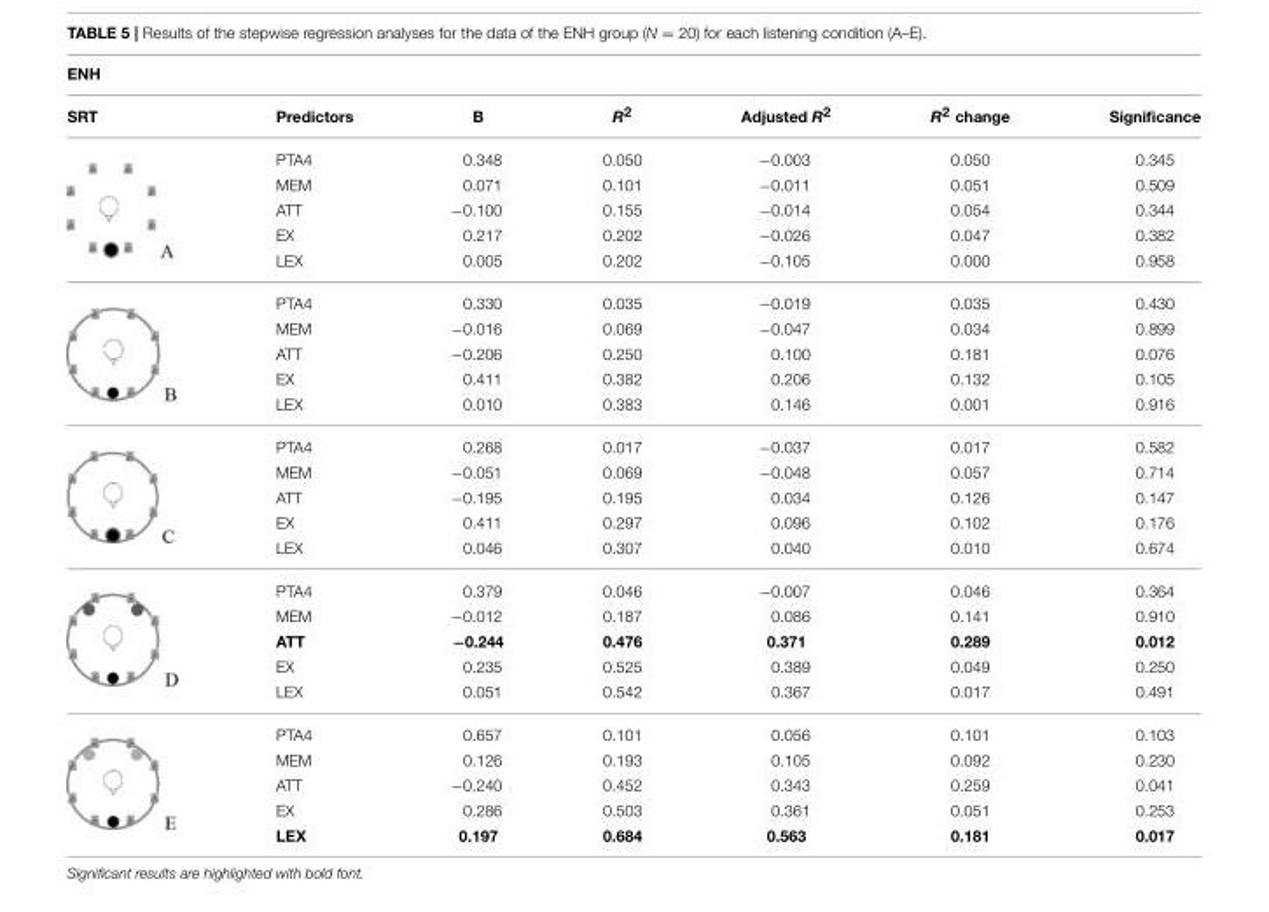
<table><thead><tr><td colspan="7">ENH</td></tr><tr><td>SRT</td><td>Predictors</td><td>B</td><td>R<sup>2</sup></td><td>Adjusted</td><td>R2 R2 change</td><td>Significance</td></tr></thead><tbody><tr><td></td><td>PTA4</td><td>0.348</td><td>0.050</td><td>−0.003</td><td>0.050</td><td>0.345</td></tr><tr><td></td><td>MEM</td><td>0.071</td><td>0.101</td><td>−0.011</td><td>0.051</td><td>0.509</td></tr><tr><td></td><td>ATT</td><td>−0.100</td><td>0.155</td><td>−0.014</td><td>0.054</td><td>0.344</td></tr><tr><td></td><td>EX</td><td>0.217</td><td>0.202</td><td>−0.026</td><td>0.047</td><td>0.382</td></tr><tr><td></td><td>LEX</td><td>0.005</td><td>0.202</td><td>−0.105</td><td>0.000</td><td>0.958</td></tr><tr><td></td><td>PTA4</td><td>0.330</td><td>0.035</td><td>−0.019</td><td>0.035</td><td>0.430</td></tr><tr><td></td><td>MEM</td><td>−0.016</td><td>0.069</td><td>−0.047</td><td>0.034</td><td>0.899</td></tr><tr><td></td><td>ATT</td><td>−0.206</td><td>0.250</td><td>0.100</td><td>0.181</td><td>0.076</td></tr><tr><td></td><td>EX</td><td>0.411</td><td>0.382</td><td>0.206</td><td>0.132</td><td>0.105</td></tr><tr><td></td><td>LEX</td><td>0.010</td><td>0.383</td><td>0.146</td><td>0.001</td><td>0.916</td></tr><tr><td></td><td>PTA4</td><td>0.268</td><td>0.017</td><td>−0.037</td><td>0.017</td><td>0.582</td></tr><tr><td></td><td>MEM</td><td>−0.051</td><td>0.069</td><td>−0.048</td><td>0.057</td><td>0.714</td></tr><tr><td></td><td>ATT</td><td>−0.195</td><td>0.195</td><td>0.034</td><td>0.126</td><td>0.147</td></tr><tr><td></td><td>EX</td><td>0.411</td><td>0.297</td><td>0.096</td><td>0.102</td><td>0.176</td></tr><tr><td></td><td>LEX</td><td>0.046</td><td>0.307</td><td>0.040</td><td>0.010</td><td>0.674</td></tr><tr><td></td><td>PTA4</td><td>0.379</td><td>0.046</td><td>−0.007</td><td>0.046</td><td>0.364</td></tr><tr><td></td><td>MEM</td><td>−0.012</td><td>0.187</td><td>0.086</td><td>0.141</td><td>0.910</td></tr><tr><td></td><td>ATT</td><td>−0.244</td><td>0.476</td><td>0.371</td><td>0.289</td><td>0.012</td></tr><tr><td></td><td>EX</td><td>0.235</td><td>0.525</td><td>0.389</td><td>0.049</td><td>0.250</td></tr><tr><td></td><td>LEX</td><td>0.051</td><td>0.542</td><td>0.367</td><td>0.017</td><td>0.491</td></tr><tr><td></td><td>PTA4</td><td>0.657</td><td>0.101</td><td>0.056</td><td>0.101</td><td>0.103</td></tr><tr><td></td><td>MEM</td><td>0.126</td><td>0.193</td><td>0.105</td><td>0.092</td><td>0.230</td></tr><tr><td></td><td>ATT</td><td>−0.240</td><td>0.452</td><td>0.343</td><td>0.259</td><td>0.041</td></tr><tr><td></td><td>EX</td><td>0.286</td><td>0.503</td><td>0.361</td><td>0.051</td><td>0.253</td></tr><tr><td></td><td>LEX</td><td>0.197</td><td>0.684</td><td>0.563</td><td>0.181</td><td>0.017</td></tr></tbody></table>